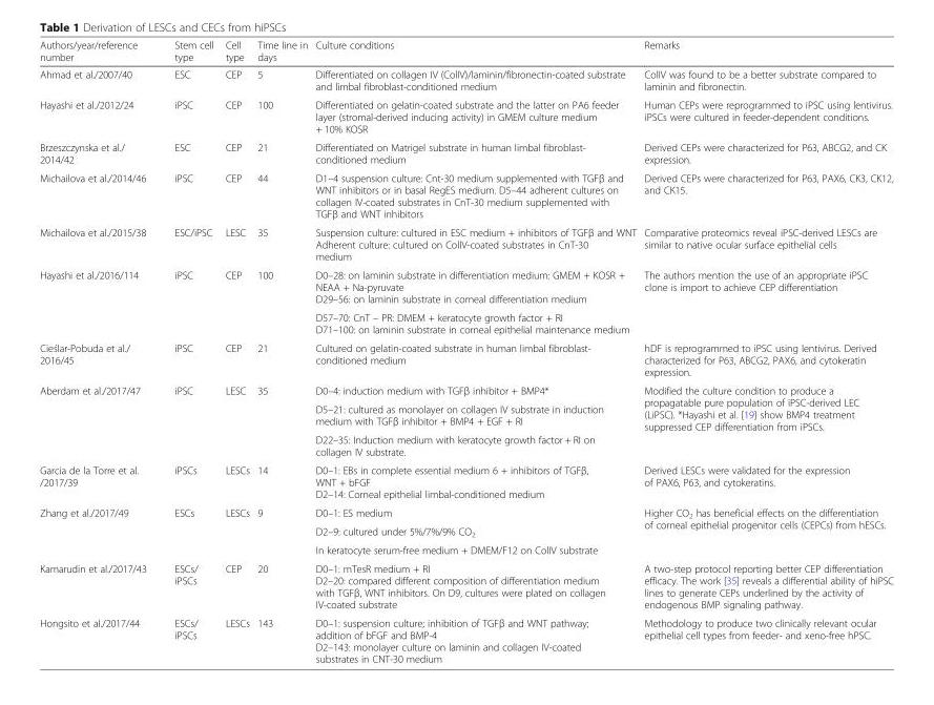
<table><thead><tr><td>Authors/year/reference number</td><td>Stem cell type</td><td>Cell type</td><td>Time line in days</td><td>Culture conditions</td><td>Remarks</td></tr></thead><tbody><tr><td>Ahmad et al./2007/40</td><td>ESC</td><td>CEP</td><td>5</td><td>Differentiated on collagen IV (ColIV)/laminin/fibronectin-coated substrate and limbal fibroblast-conditioned medium</td><td>ColIV was found to be a better substrate compared to laminin and fibronectin.</td></tr><tr><td>Hayashi et al./2012/24</td><td>iPSC</td><td>CEP</td><td>100</td><td>Differentiated on gelatin-coated substrate and the latter on PA6 feeder layer (stromal-derived inducing activity) in GMEM culture medium + 10% KOSR</td><td>Human CEPs were reprogrammed to iPSC using lentivirus. iPSCs were cultured in feeder-dependent conditions.</td></tr><tr><td>Brzeszczynska et al./ 2014/42</td><td>ESC</td><td>CEP</td><td>21</td><td>Differentiated on Matrigel substrate in human limbal fibroblast- conditioned medium</td><td>Derived CEPs were characterized for P63, ABCG2, and CK expression.</td></tr><tr><td>Michailova et al./2014/46</td><td>iPSC</td><td>CEP</td><td>44</td><td>D1–4 suspension culture: Cnt-30 medium supplemented with TGFβ and WNT inhibitors or in basal RegES medium. D5–44 adherent cultures on collagen IV-coated substrates in CnT-30 medium supplemented with TGFβ and WNT inhibitors</td><td>Derived CEPs were characterized for P63, PAX6, CK3, CK12, and CK15.</td></tr><tr><td>Michailova et al./2015/38</td><td>ESC/iPSC</td><td>LESC</td><td>35</td><td>Suspension culture: cultured in ESC medium + inhibitors of TGFβ and WNT Adherent culture: cultured on ColIV-coated substrates in CnT-30 medium</td><td>Comparative proteomics reveal iPSC-derived LESCs are similar to native ocular surface epithelial cells</td></tr><tr><td rowspan="2">Hayashi et al./2016/114</td><td rowspan="2">iPSC</td><td rowspan="2">CEP</td><td rowspan="2">100</td><td>D0–28: on laminin substrate in differentiation medium: GMEM + KOSR + NEAA + Na-pyruvate D29–56: on laminin substrate in corneal differentiation medium</td><td rowspan="2">The authors mention the use of an appropriate iPSC clone is import to achieve CEP differentiation</td></tr><tr><td>D57–70: CnT – PR: DMEM + keratocyte growth factor + RI D71–100: on laminin substrate in corneal epithelial maintenance medium</td></tr><tr><td>Cieślar-Pobuda et al./ 2016/45</td><td>iPSC</td><td>CEP</td><td>21</td><td>Cultured on gelatin-coated substrate in human limbal fibroblast- conditioned medium</td><td>hDF is reprogrammed to iPSC using lentivirus. Derived characterized for P63, ABCG2, PAX6, and cytokeratin expression.</td></tr><tr><td rowspan="3">Aberdam et al./2017/47</td><td rowspan="3">iPSC</td><td rowspan="3">LESC</td><td rowspan="3">35</td><td>D0–4: induction medium with TGFβ inhibitor + BMP4*</td><td rowspan="3">Modified the culture condition to produce a propagatable pure population of iPSC-derived LEC (LiPSC). *Hayashi et al. [19] show BMP4 treatment suppressed CEP differentiation from iPSCs.</td></tr><tr><td>D5–21: cultured as monolayer on collagen IV substrate in induction medium with TGFβ inhibitor + BMP4 + EGF + RI</td></tr><tr><td>D22–35: Induction medium with keratocyte growth factor + RI on collagen IV substrate.</td></tr><tr><td>Garcia de la Torre et al. /2017/39</td><td>iPSCs</td><td>LESCs</td><td>14</td><td>D0–1: EBs in complete essential medium 6 + inhibitors of TGFβ, WNT + bFGF D2–14: Corneal epithelial limbal-conditioned medium</td><td>Derived LESCs were validated for the expression of PAX6, P63, and cytokeratins.</td></tr><tr><td rowspan="3">Zhang et al./2017/49</td><td rowspan="3">ESCs</td><td rowspan="3">LESCs</td><td rowspan="3">9</td><td>D0–1: ES medium</td><td rowspan="3">Higher CO<sub>2</sub> has beneficial effects on the differentiation of corneal epithelial progenitor cells (CEPCs) from hESCs.</td></tr><tr><td>D2–9: cultured under 5%/7%/9% CO<sub>2</sub></td></tr><tr><td>In keratocyte serum-free medium + DMEM/F12 on ColIV substrate</td></tr><tr><td>Kamarudin et al./2017/43</td><td>ESCs/ iPSCs</td><td>CEP</td><td>20</td><td>D0–1: mTesR medium + RI D2–20: compared different composition of differentiation medium with TGFβ, WNT inhibitors. On D9, cultures were plated on collagen IV-coated substrate</td><td>A two-step protocol reporting better CEP differentiation efficacy. The work [35] reveals a differential ability of hiPSC lines to generate CEPs underlined by the activity of endogenous BMP signaling pathway.</td></tr><tr><td>Hongsito et al./2017/44</td><td>ESCs/ iPSCs</td><td>LESCs</td><td>143</td><td>D0–1: suspension culture; inhibition of TGFβ and WNT pathway; addition of bFGF and BMP-4 D2–143: monolayer culture on laminin and collagen IV-coated substrates in CNT-30 medium</td><td>Methodology to produce two clinically relevant ocular epithelial cell types from feeder- and xeno-free hPSC.</td></tr></tbody></table>